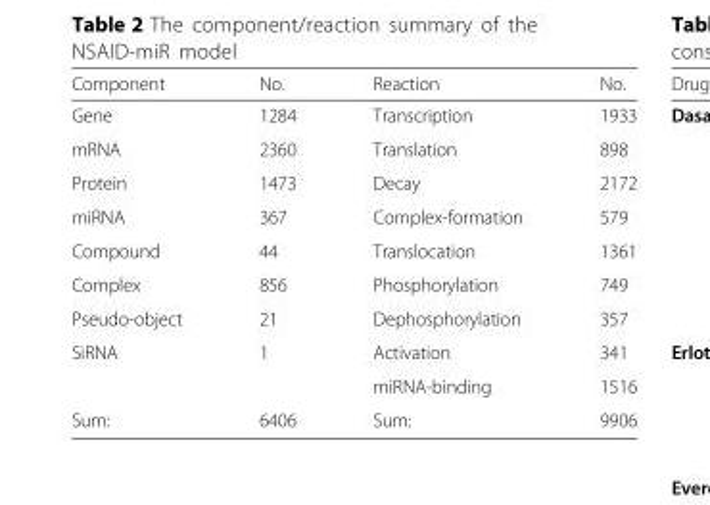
<table><thead><tr><td>Component</td><td>No.</td><td>Reaction</td><td>No.</td></tr></thead><tbody><tr><td>Gene</td><td>1284</td><td>Transcription</td><td>1933</td></tr><tr><td>mRNA</td><td>2360</td><td>Translation</td><td>898</td></tr><tr><td>Protein</td><td>1473</td><td>Decay</td><td>2172</td></tr><tr><td>miRNA</td><td>367</td><td>Complex-formation</td><td>579</td></tr><tr><td>Compound</td><td>44</td><td>Translocation</td><td>1361</td></tr><tr><td>Complex</td><td>856</td><td>Phosphorylation</td><td>749</td></tr><tr><td>Pseudo-object</td><td>21</td><td>Dephosphorylation</td><td>357</td></tr><tr><td rowspan="2">SiRNA</td><td>1</td><td>Activation</td><td>341</td></tr><tr><td></td><td>miRNA-binding</td><td>1516</td></tr><tr><td>Sum:</td><td>6406</td><td>Sum:</td><td>9906</td></tr></tbody></table>